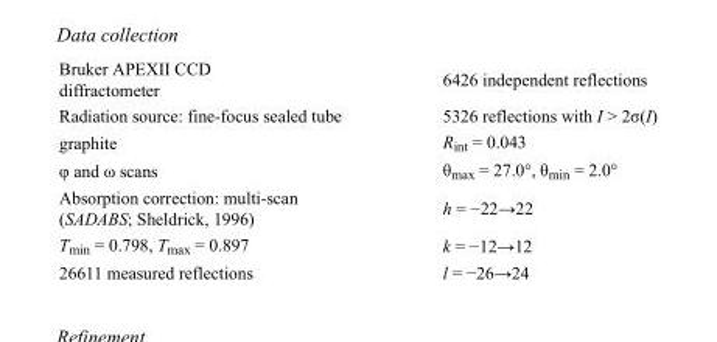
<table><tbody><tr><td>Bruker APEXII CCD diffractometer</td><td>6426 independent reflections</td></tr><tr><td>Radiation source: fine-focus sealed tube</td><td>5326 reflections with I &gt; 2σ(I)</td></tr><tr><td>graphite</td><td>R<sub>int</sub> = 0.043</td></tr><tr><td>φ and ω scans</td><td>θ<sub>max</sub> = 27.0°, θ<sub>min</sub> = 2.0°</td></tr><tr><td>Absorption correction: multi-scan (SADABS; Sheldrick, 1996)</td><td>h = −22→22</td></tr><tr><td>T<sub>min</sub> = 0.798, T<sub>max</sub> = 0.897</td><td>k = −12→12</td></tr><tr><td>26611 measured reflections</td><td>l = −26→24</td></tr></tbody></table>